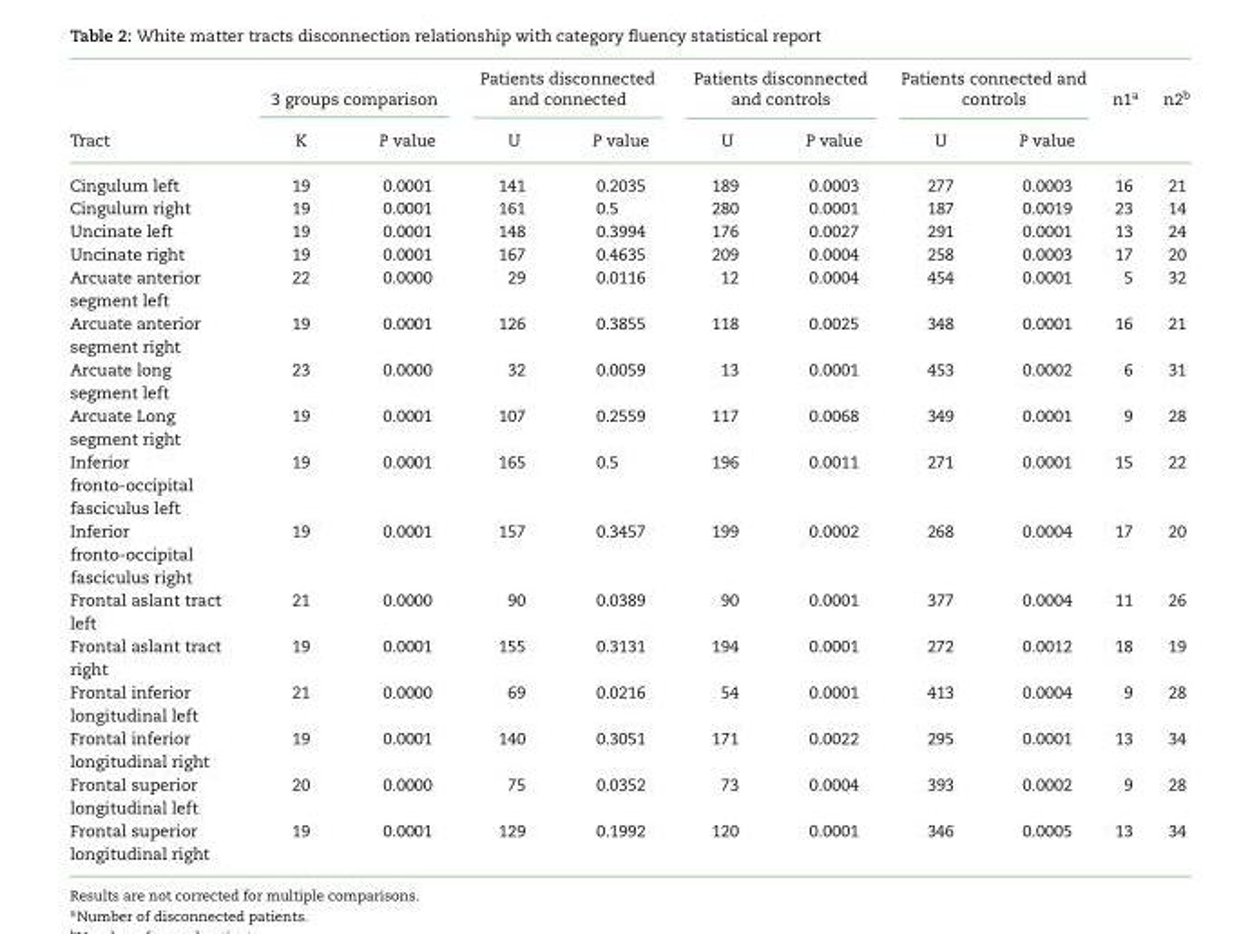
<table><thead><tr><td rowspan="2">Tract</td><td colspan="2">3 groups comparison</td><td colspan="2">Patients disconnected and connected</td><td colspan="2">Patients disconnected and controls</td><td colspan="2">Patients connected and controls</td><td rowspan="2">n1<sup>a</sup></td><td rowspan="2">n2<sup>b</sup></td></tr><tr><td>K</td><td>P value</td><td>U</td><td>P value</td><td>U</td><td>P value</td><td>U</td><td>P value</td></tr></thead><tbody><tr><td>Cingulum left</td><td>19</td><td>0.0001</td><td>141</td><td>0.2035</td><td>189</td><td>0.0003</td><td>277</td><td>0.0003</td><td>16</td><td>21</td></tr><tr><td>Cingulum right</td><td>19</td><td>0.0001</td><td>161</td><td>0.5</td><td>280</td><td>0.0001</td><td>187</td><td>0.0019</td><td>23</td><td>14</td></tr><tr><td>Uncinate left</td><td>19</td><td>0.0001</td><td>148</td><td>0.3994</td><td>176</td><td>0.0027</td><td>291</td><td>0.0001</td><td>13</td><td>24</td></tr><tr><td>Uncinate right</td><td>19</td><td>0.0001</td><td>167</td><td>0.4635</td><td>209</td><td>0.0004</td><td>258</td><td>0.0003</td><td>17</td><td>20</td></tr><tr><td>Arcuate anterior segment left</td><td>22</td><td>0.0000</td><td>29</td><td>0.0116</td><td>12</td><td>0.0004</td><td>454</td><td>0.0001</td><td>5</td><td>32</td></tr><tr><td>Arcuate anterior segment right</td><td>19</td><td>0.0001</td><td>126</td><td>0.3855</td><td>118</td><td>0.0025</td><td>348</td><td>0.0001</td><td>16</td><td>21</td></tr><tr><td>Arcuate long segment left</td><td>23</td><td>0.0000</td><td>32</td><td>0.0059</td><td>13</td><td>0.0001</td><td>453</td><td>0.0002</td><td>6</td><td>31</td></tr><tr><td>Arcuate Long segment right</td><td>19</td><td>0.0001</td><td>107</td><td>0.2559</td><td>117</td><td>0.0068</td><td>349</td><td>0.0001</td><td>9</td><td>28</td></tr><tr><td>Inferior fronto-occipital fasciculus left</td><td>19</td><td>0.0001</td><td>165</td><td>0.5</td><td>196</td><td>0.0011</td><td>271</td><td>0.0001</td><td>15</td><td>22</td></tr><tr><td>Inferior fronto-occipital fasciculus right</td><td>19</td><td>0.0001</td><td>157</td><td>0.3457</td><td>199</td><td>0.0002</td><td>268</td><td>0.0004</td><td>17</td><td>20</td></tr><tr><td>Frontal aslant tract left</td><td>21</td><td>0.0000</td><td>90</td><td>0.0389</td><td>90</td><td>0.0001</td><td>377</td><td>0.0004</td><td>11</td><td>26</td></tr><tr><td>Frontal aslant tract right</td><td>19</td><td>0.0001</td><td>155</td><td>0.3131</td><td>194</td><td>0.0001</td><td>272</td><td>0.0012</td><td>18</td><td>19</td></tr><tr><td>Frontal inferior longitudinal left</td><td>21</td><td>0.0000</td><td>69</td><td>0.0216</td><td>54</td><td>0.0001</td><td>413</td><td>0.0004</td><td>9</td><td>28</td></tr><tr><td>Frontal inferior longitudinal right</td><td>19</td><td>0.0001</td><td>140</td><td>0.3051</td><td>171</td><td>0.0022</td><td>295</td><td>0.0001</td><td>13</td><td>34</td></tr><tr><td>Frontal superior longitudinal left</td><td>20</td><td>0.0000</td><td>75</td><td>0.0352</td><td>73</td><td>0.0004</td><td>393</td><td>0.0002</td><td>9</td><td>28</td></tr><tr><td>Frontal superior longitudinal right</td><td>19</td><td>0.0001</td><td>129</td><td>0.1992</td><td>120</td><td>0.0001</td><td>346</td><td>0.0005</td><td>13</td><td>34</td></tr></tbody></table>